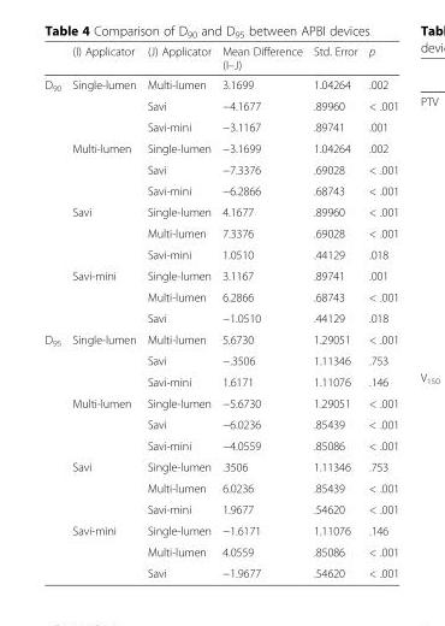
<table><thead><tr><td></td><td>(I) Applicator</td><td>(J) Applicator</td><td>Mean Difference (I–J)</td><td>Std. Error</td><td>p</td></tr></thead><tbody><tr><td rowspan="12">D<sub>90</sub></td><td rowspan="3">Single-lumen</td><td>Multi-lumen</td><td>3.1699</td><td>1.04264</td><td>.002</td></tr><tr><td>Savi</td><td>−4.1677</td><td>.89960</td><td>&lt; .001</td></tr><tr><td>Savi-mini</td><td>−3.1167</td><td>.89741</td><td>.001</td></tr><tr><td rowspan="3">Multi-lumen</td><td>Single-lumen</td><td>−3.1699</td><td>1.04264</td><td>.002</td></tr><tr><td>Savi</td><td>−7.3376</td><td>.69028</td><td>&lt; .001</td></tr><tr><td>Savi-mini</td><td>−6.2866</td><td>.68743</td><td>&lt; .001</td></tr><tr><td rowspan="3">Savi</td><td>Single-lumen</td><td>4.1677</td><td>.89960</td><td>&lt; .001</td></tr><tr><td>Multi-lumen</td><td>7.3376</td><td>.69028</td><td>&lt; .001</td></tr><tr><td>Savi-mini</td><td>1.0510</td><td>.44129</td><td>.018</td></tr><tr><td rowspan="3">Savi-mini</td><td>Single-lumen</td><td>3.1167</td><td>.89741</td><td>.001</td></tr><tr><td>Multi-lumen</td><td>6.2866</td><td>.68743</td><td>&lt; .001</td></tr><tr><td>Savi</td><td>−1.0510</td><td>.44129</td><td>.018</td></tr><tr><td rowspan="12">D<sub>95</sub></td><td rowspan="3">Single-lumen</td><td>Multi-lumen</td><td>5.6730</td><td>1.29051</td><td>&lt; .001</td></tr><tr><td>Savi</td><td>−.3506</td><td>1.11346</td><td>.753</td></tr><tr><td>Savi-mini</td><td>1.6171</td><td>1.11076</td><td>.146</td></tr><tr><td rowspan="3">Multi-lumen</td><td>Single-lumen</td><td>−5.6730</td><td>1.29051</td><td>&lt; .001</td></tr><tr><td>Savi</td><td>−6.0236</td><td>.85439</td><td>&lt; .001</td></tr><tr><td>Savi-mini</td><td>−4.0559</td><td>.85086</td><td>&lt; .001</td></tr><tr><td rowspan="3">Savi</td><td>Single-lumen</td><td>.3506</td><td>1.11346</td><td>.753</td></tr><tr><td>Multi-lumen</td><td>6.0236</td><td>.85439</td><td>&lt; .001</td></tr><tr><td>Savi-mini</td><td>1.9677</td><td>.54620</td><td>&lt; .001</td></tr><tr><td rowspan="3">Savi-mini</td><td>Single-lumen</td><td>−1.6171</td><td>1.11076</td><td>.146</td></tr><tr><td>Multi-lumen</td><td>4.0559</td><td>.85086</td><td>&lt; .001</td></tr><tr><td>Savi</td><td>−1.9677</td><td>.54620</td><td>&lt; .001</td></tr></tbody></table>